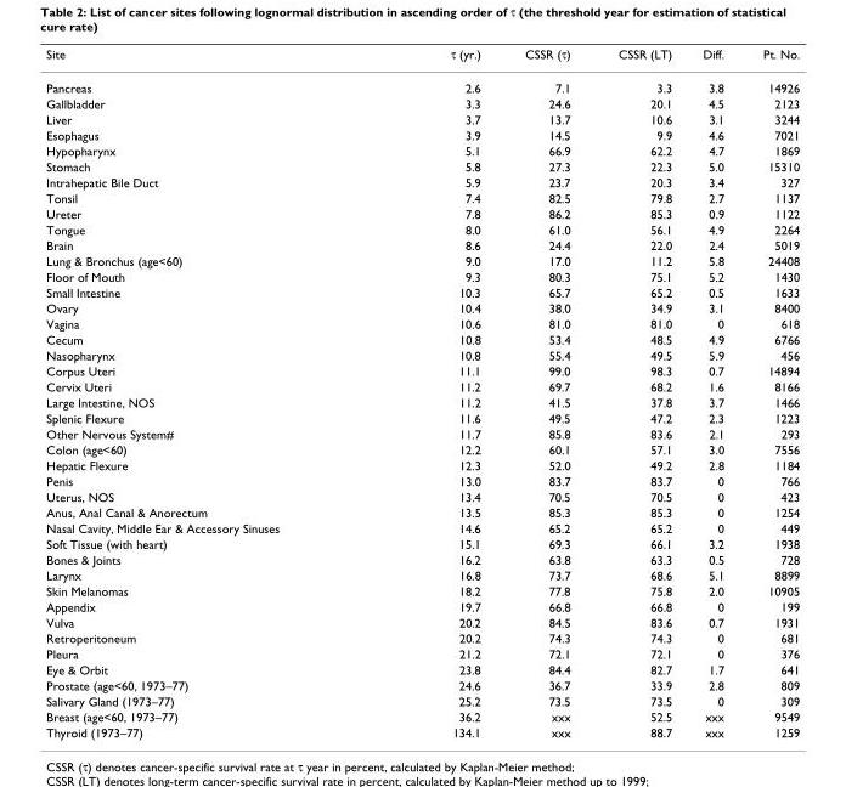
<table><thead><tr><td>Site</td><td>τ (yr.)</td><td>CSSR (τ)</td><td>CSSR (LT)</td><td>Diff.</td><td>Pt. No.</td></tr></thead><tbody><tr><td>Pancreas</td><td>2.6</td><td>7.1</td><td>3.3</td><td>3.8</td><td>14926</td></tr><tr><td>Gallbladder</td><td>3.3</td><td>24.6</td><td>20.1</td><td>4.5</td><td>2123</td></tr><tr><td>Liver</td><td>3.7</td><td>13.7</td><td>10.6</td><td>3.1</td><td>3244</td></tr><tr><td>Esophagus</td><td>3.9</td><td>14.5</td><td>9.9</td><td>4.6</td><td>7021</td></tr><tr><td>Hypopharynx</td><td>5.1</td><td>66.9</td><td>62.2</td><td>4.7</td><td>1869</td></tr><tr><td>Stomach</td><td>5.8</td><td>27.3</td><td>22.3</td><td>5.0</td><td>15310</td></tr><tr><td>Intrahepatic Bile Duct</td><td>5.9</td><td>23.7</td><td>20.3</td><td>3.4</td><td>327</td></tr><tr><td>Tonsil</td><td>7.4</td><td>82.5</td><td>79.8</td><td>2.7</td><td>1137</td></tr><tr><td>Ureter</td><td>7.8</td><td>86.2</td><td>85.3</td><td>0.9</td><td>1122</td></tr><tr><td>Tongue</td><td>8.0</td><td>61.0</td><td>56.1</td><td>4.9</td><td>2264</td></tr><tr><td>Brain</td><td>8.6</td><td>24.4</td><td>22.0</td><td>2.4</td><td>5019</td></tr><tr><td>Lung &amp; Bronchus (age&lt;60)</td><td>9.0</td><td>17.0</td><td>11.2</td><td>5.8</td><td>24408</td></tr><tr><td>Floor of Mouth</td><td>9.3</td><td>80.3</td><td>75.1</td><td>5.2</td><td>1430</td></tr><tr><td>Small Intestine</td><td>10.3</td><td>65.7</td><td>65.2</td><td>0.5</td><td>1633</td></tr><tr><td>Ovary</td><td>10.4</td><td>38.0</td><td>34.9</td><td>3.1</td><td>8400</td></tr><tr><td>Vagina</td><td>10.6</td><td>81.0</td><td>81.0</td><td>0</td><td>618</td></tr><tr><td>Cecum</td><td>10.8</td><td>53.4</td><td>48.5</td><td>4.9</td><td>6766</td></tr><tr><td>Nasopharynx</td><td>10.8</td><td>55.4</td><td>49.5</td><td>5.9</td><td>456</td></tr><tr><td>Corpus Uteri</td><td>11.1</td><td>99.0</td><td>98.3</td><td>0.7</td><td>14894</td></tr><tr><td>Cervix Uteri</td><td>11.2</td><td>69.7</td><td>68.2</td><td>1.6</td><td>8166</td></tr><tr><td>Large Intestine, NOS</td><td>11.2</td><td>41.5</td><td>37.8</td><td>3.7</td><td>1466</td></tr><tr><td>Splenic Flexure</td><td>11.6</td><td>49.5</td><td>47.2</td><td>2.3</td><td>1223</td></tr><tr><td>Other Nervous System#</td><td>11.7</td><td>85.8</td><td>83.6</td><td>2.1</td><td>293</td></tr><tr><td>Colon (age&lt;60)</td><td>12.2</td><td>60.1</td><td>57.1</td><td>3.0</td><td>7556</td></tr><tr><td>Hepatic Flexure</td><td>12.3</td><td>52.0</td><td>49.2</td><td>2.8</td><td>1184</td></tr><tr><td>Penis</td><td>13.0</td><td>83.7</td><td>83.7</td><td>0</td><td>766</td></tr><tr><td>Uterus, NOS</td><td>13.4</td><td>70.5</td><td>70.5</td><td>0</td><td>423</td></tr><tr><td>Anus, Anal Canal &amp; Anorectum</td><td>13.5</td><td>85.3</td><td>85.3</td><td>0</td><td>1254</td></tr><tr><td>Nasal Cavity, Middle Ear &amp; Accessory Sinuses</td><td>14.6</td><td>65.2</td><td>65.2</td><td>0</td><td>449</td></tr><tr><td>Soft Tissue (with heart)</td><td>15.1</td><td>69.3</td><td>66.1</td><td>3.2</td><td>1938</td></tr><tr><td>Bones &amp; Joints</td><td>16.2</td><td>63.8</td><td>63.3</td><td>0.5</td><td>728</td></tr><tr><td>Larynx</td><td>16.8</td><td>73.7</td><td>68.6</td><td>5.1</td><td>8899</td></tr><tr><td>Skin Melanomas</td><td>18.2</td><td>77.8</td><td>75.8</td><td>2.0</td><td>10905</td></tr><tr><td>Appendix</td><td>19.7</td><td>66.8</td><td>66.8</td><td>0</td><td>199</td></tr><tr><td>Vulva</td><td>20.2</td><td>84.5</td><td>83.6</td><td>0.7</td><td>1931</td></tr><tr><td>Retroperitoneum</td><td>20.2</td><td>74.3</td><td>74.3</td><td>0</td><td>681</td></tr><tr><td>Pleura</td><td>21.2</td><td>72.1</td><td>72.1</td><td>0</td><td>376</td></tr><tr><td>Eye &amp; Orbit</td><td>23.8</td><td>84.4</td><td>82.7</td><td>1.7</td><td>641</td></tr><tr><td>Prostate (age&lt;60, 1973–77)</td><td>24.6</td><td>36.7</td><td>33.9</td><td>2.8</td><td>809</td></tr><tr><td>Salivary Gland (1973–77)</td><td>25.2</td><td>73.5</td><td>73.5</td><td>0</td><td>309</td></tr><tr><td>Breast (age&lt;60, 1973–77)</td><td>36.2</td><td>xxx</td><td>52.5</td><td>xxx</td><td>9549</td></tr><tr><td>Thyroid (1973–77)</td><td>134.1</td><td>xxx</td><td>88.7</td><td>xxx</td><td>1259</td></tr></tbody></table>